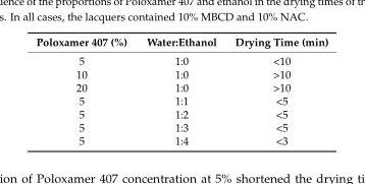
<table><thead><tr><td>Poloxamer 407 (%)</td><td>Water:Ethanol</td><td>Drying Time (min)</td></tr></thead><tbody><tr><td>5</td><td>1:0</td><td>&lt;10</td></tr><tr><td>10</td><td>1:0</td><td>&gt;10</td></tr><tr><td>20</td><td>1:0</td><td>&gt;10</td></tr><tr><td>5</td><td>1:1</td><td>&lt;5</td></tr><tr><td>5</td><td>1:2</td><td>&lt;5</td></tr><tr><td>5</td><td>1:3</td><td>&lt;5</td></tr><tr><td>5</td><td>1:4</td><td>&lt;3</td></tr></tbody></table>